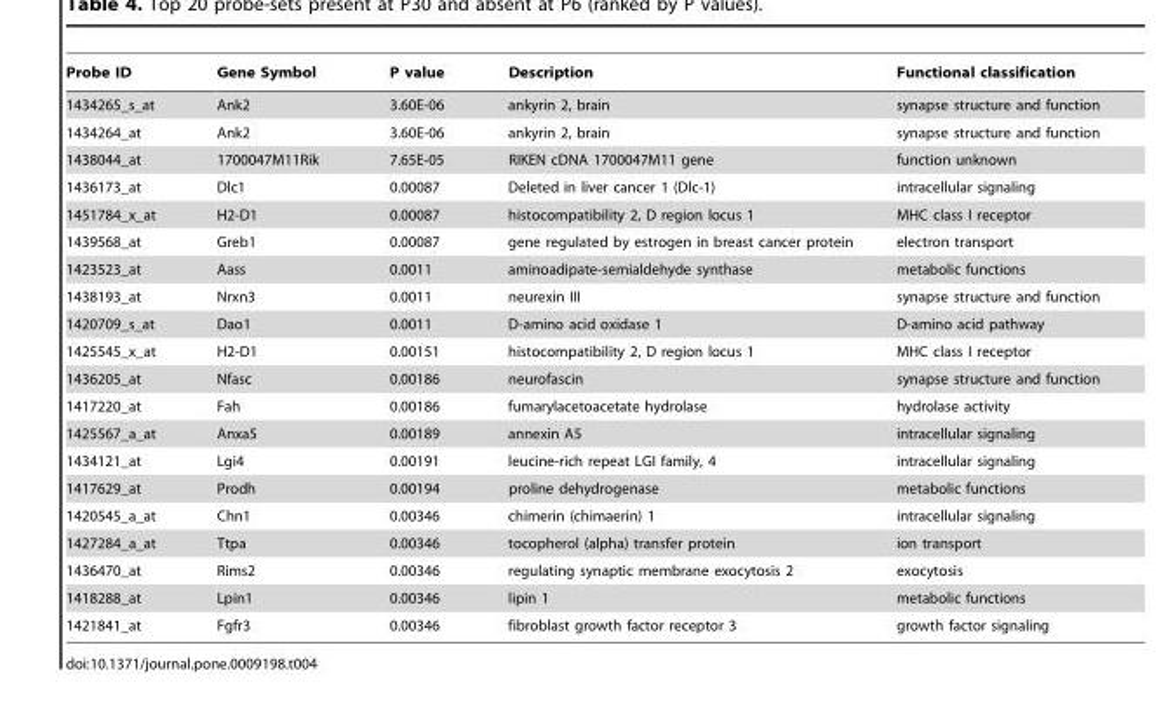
<table><thead><tr><td>Probe ID</td><td>Gene Symbol</td><td>P value</td><td>Description</td><td>Functional classification</td></tr></thead><tbody><tr><td>1434265_s_at</td><td>Ank2</td><td>3.60E-06</td><td>ankyrin 2, brain</td><td>synapse structure and function</td></tr><tr><td>1434264_at</td><td>Ank2</td><td>3.60E-06</td><td>ankyrin 2, brain</td><td>synapse structure and function</td></tr><tr><td>1438044_at</td><td>1700047M11Rik</td><td>7.65E-05</td><td>RIKEN cDNA 1700047M11 gene</td><td>function unknown</td></tr><tr><td>1436173_at</td><td>Dlc1</td><td>0.00087</td><td>Deleted in liver cancer 1 (Dlc-1)</td><td>intracellular signaling</td></tr><tr><td>1451784_x_at</td><td>H2-D1</td><td>0.00087</td><td>histocompatibility 2, D region locus 1</td><td>MHC class I receptor</td></tr><tr><td>1439568_at</td><td>Greb1</td><td>0.00087</td><td>gene regulated by estrogen in breast cancer protein</td><td>electron transport</td></tr><tr><td>1423523_at</td><td>Aass</td><td>0.0011</td><td>aminoadipate-semialdehyde synthase</td><td>metabolic functions</td></tr><tr><td>1438193_at</td><td>Nrxn3</td><td>0.0011</td><td>neurexin III</td><td>synapse structure and function</td></tr><tr><td>1420709_s_at</td><td>Dao1</td><td>0.0011</td><td>D-amino acid oxidase 1</td><td>D-amino acid pathway</td></tr><tr><td>1425545_x_at</td><td>H2-D1</td><td>0.00151</td><td>histocompatibility 2, D region locus 1</td><td>MHC class I receptor</td></tr><tr><td>1436205_at</td><td>Nfasc</td><td>0.00186</td><td>neurofascin</td><td>synapse structure and function</td></tr><tr><td>1417220_at</td><td>Fah</td><td>0.00186</td><td>fumarylacetoacetate hydrolase</td><td>hydrolase activity</td></tr><tr><td>1425567_a_at</td><td>Anxa5</td><td>0.00189</td><td>annexin A5</td><td>intracellular signaling</td></tr><tr><td>1434121_at</td><td>Lgi4</td><td>0.00191</td><td>leucine-rich repeat LGI family, 4</td><td>intracellular signaling</td></tr><tr><td>1417629_at</td><td>Prodh</td><td>0.00194</td><td>proline dehydrogenase</td><td>metabolic functions</td></tr><tr><td>1420545_a_at</td><td>Chn1</td><td>0.00346</td><td>chimerin (chimaerin) 1</td><td>intracellular signaling</td></tr><tr><td>1427284_a_at</td><td>Ttpa</td><td>0.00346</td><td>tocopherol (alpha) transfer protein</td><td>ion transport</td></tr><tr><td>1436470_at</td><td>Rims2</td><td>0.00346</td><td>regulating synaptic membrane exocytosis 2</td><td>exocytosis</td></tr><tr><td>1418288_at</td><td>Lpin1</td><td>0.00346</td><td>lipin 1</td><td>metabolic functions</td></tr><tr><td>1421841_at</td><td>Fgfr3</td><td>0.00346</td><td>fibroblast growth factor receptor 3</td><td>growth factor signaling</td></tr></tbody></table>